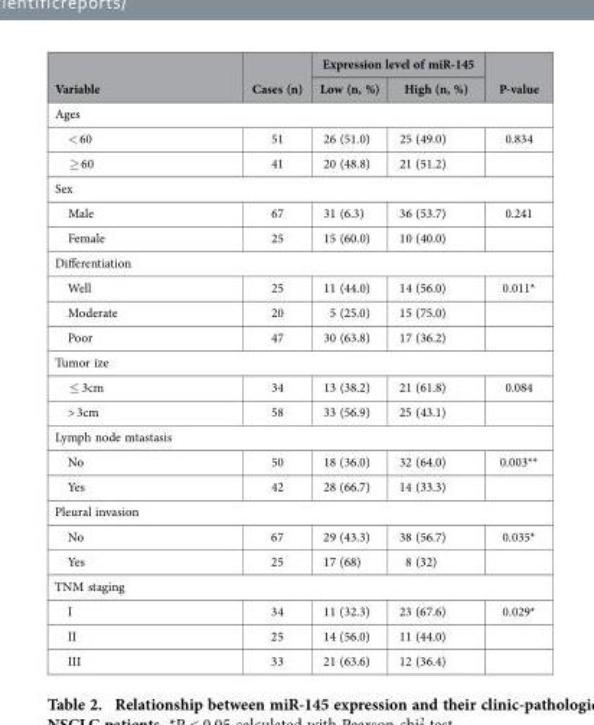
<table><thead><tr><td rowspan="2">Variable</td><td rowspan="2">Cases (n)</td><td colspan="2">Expression level of miR-145</td><td rowspan="2">P-value</td></tr><tr><td>Low (n, %)</td><td>High (n, %)</td></tr></thead><tbody><tr><td colspan="5">Ages</td></tr><tr><td>&lt; 60</td><td>51</td><td>26 (51.0)</td><td>25 (49.0)</td><td>0.834</td></tr><tr><td>≥ 60</td><td>41</td><td>20 (48.8)</td><td>21 (51.2)</td><td></td></tr><tr><td colspan="5">Sex</td></tr><tr><td>Male</td><td>67</td><td>31 (6.3)</td><td>36 (53.7)</td><td>0.241</td></tr><tr><td>Female</td><td>25</td><td>15 (60.0)</td><td>10 (40.0)</td><td></td></tr><tr><td colspan="5">Differentiation</td></tr><tr><td>Well</td><td>25</td><td>11 (44.0)</td><td>14 (56.0)</td><td>0.011*</td></tr><tr><td>Moderate</td><td>20</td><td>5 (25.0)</td><td>15 (75.0)</td><td></td></tr><tr><td>Poor</td><td>47</td><td>30 (63.8)</td><td>17 (36.2)</td><td></td></tr><tr><td colspan="5">Tumor ize</td></tr><tr><td>≤ 3cm</td><td>34</td><td>13 (38.2)</td><td>21 (61.8)</td><td>0.084</td></tr><tr><td>&gt; 3cm</td><td>58</td><td>33 (56.9)</td><td>25 (43.1)</td><td></td></tr><tr><td colspan="5">Lymph node mtastasis</td></tr><tr><td>No</td><td>50</td><td>18 (36.0)</td><td>32 (64.0)</td><td>0.003**</td></tr><tr><td>Yes</td><td>42</td><td>28 (66.7)</td><td>14 (33.3)</td><td></td></tr><tr><td colspan="5">Pleural invasion</td></tr><tr><td>No</td><td>67</td><td>29 (43.3)</td><td>38 (56.7)</td><td>0.035*</td></tr><tr><td>Yes</td><td>25</td><td>17 (68)</td><td>8 (32)</td><td></td></tr><tr><td colspan="5">TNM staging</td></tr><tr><td>I</td><td>34</td><td>11 (32.3)</td><td>23 (67.6)</td><td>0.029*</td></tr><tr><td>II</td><td>25</td><td>14 (56.0)</td><td>11 (44.0)</td><td></td></tr><tr><td>III</td><td>33</td><td>21 (63.6)</td><td>12 (36.4)</td><td></td></tr></tbody></table>